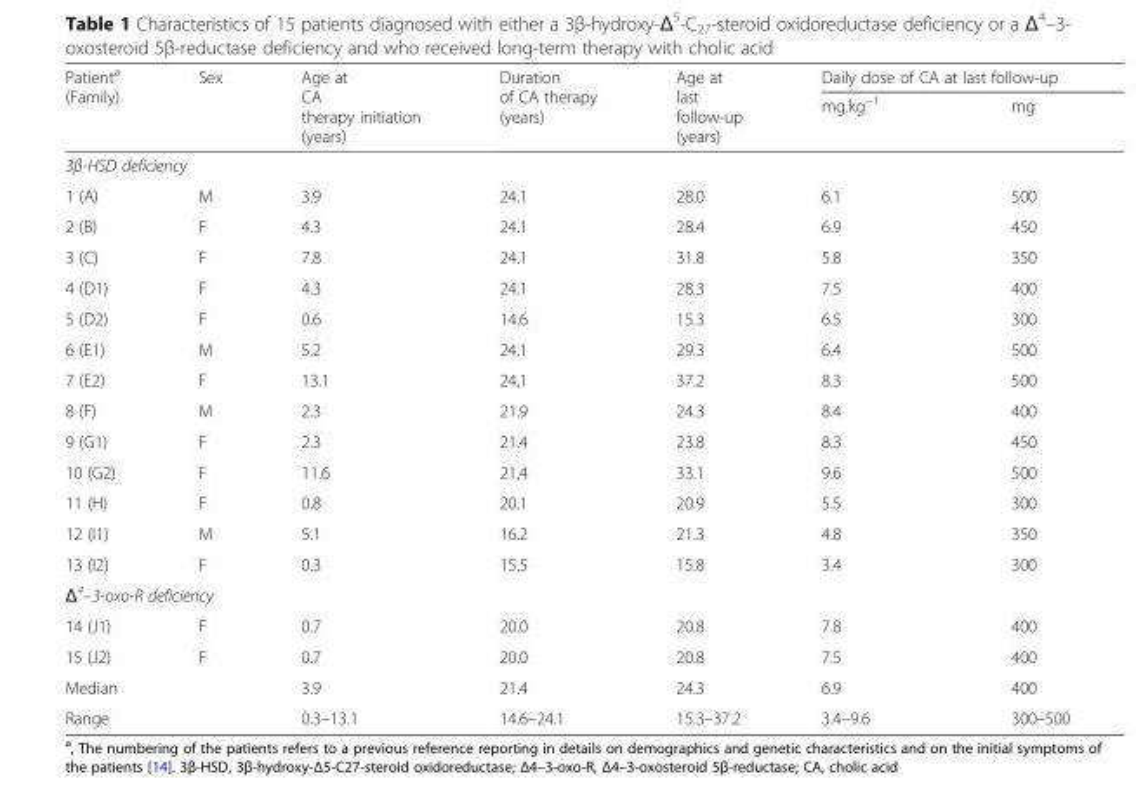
<table><thead><tr><td rowspan="2">Patient<sup>a</sup> (Family)</td><td rowspan="2">Sex</td><td rowspan="2">Age at CA therapy initiation (years)</td><td rowspan="2">Duration of CA therapy (years)</td><td rowspan="2">Age at last follow-up (years)</td><td colspan="2">Daily dose of CA at last follow-up</td></tr><tr><td>mg.kg<sup>−1</sup></td><td>mg</td></tr></thead><tbody><tr><td colspan="7">3β-HSD deficiency</td></tr><tr><td>1 (A)</td><td>M</td><td>3.9</td><td>24.1</td><td>28.0</td><td>6.1</td><td>500</td></tr><tr><td>2 (B)</td><td>F</td><td>4.3</td><td>24.1</td><td>28.4</td><td>6.9</td><td>450</td></tr><tr><td>3 (C)</td><td>F</td><td>7.8</td><td>24.1</td><td>31.8</td><td>5.8</td><td>350</td></tr><tr><td>4 (D1)</td><td>F</td><td>4.3</td><td>24.1</td><td>28.3</td><td>7.5</td><td>400</td></tr><tr><td>5 (D2)</td><td>F</td><td>0.6</td><td>14.6</td><td>15.3</td><td>6.5</td><td>300</td></tr><tr><td>6 (E1)</td><td>M</td><td>5.2</td><td>24.1</td><td>29.3</td><td>6.4</td><td>500</td></tr><tr><td>7 (E2)</td><td>F</td><td>13.1</td><td>24,1</td><td>37.2</td><td>8.3</td><td>500</td></tr><tr><td>8 (F)</td><td>M</td><td>2.3</td><td>21.9</td><td>24.3</td><td>8.4</td><td>400</td></tr><tr><td>9 (G1)</td><td>F</td><td>2.3</td><td>21.4</td><td>23.8</td><td>8.3</td><td>450</td></tr><tr><td>10 (G2)</td><td>F</td><td>11.6</td><td>21,4</td><td>33.1</td><td>9.6</td><td>500</td></tr><tr><td>11 (H)</td><td>F</td><td>0.8</td><td>20.1</td><td>20.9</td><td>5.5</td><td>300</td></tr><tr><td>12 (I1)</td><td>M</td><td>5.1</td><td>16.2</td><td>21.3</td><td>4.8</td><td>350</td></tr><tr><td>13 (I2)</td><td>F</td><td>0.3</td><td>15.5</td><td>15.8</td><td>3.4</td><td>300</td></tr><tr><td colspan="7">Δ<sup>4</sup>–3-oxo-R deficiency</td></tr><tr><td>14 (J1)</td><td>F</td><td>0.7</td><td>20.0</td><td>20.8</td><td>7.8</td><td>400</td></tr><tr><td>15 (J2)</td><td>F</td><td>0.7</td><td>20.0</td><td>20.8</td><td>7.5</td><td>400</td></tr><tr><td>Median</td><td></td><td>3.9</td><td>21.4</td><td>24.3</td><td>6.9</td><td>400</td></tr><tr><td>Range</td><td></td><td>0.3–13.1</td><td>14.6–24.1</td><td>15.3–37.2</td><td>3.4–9.6</td><td>300–500</td></tr></tbody></table>